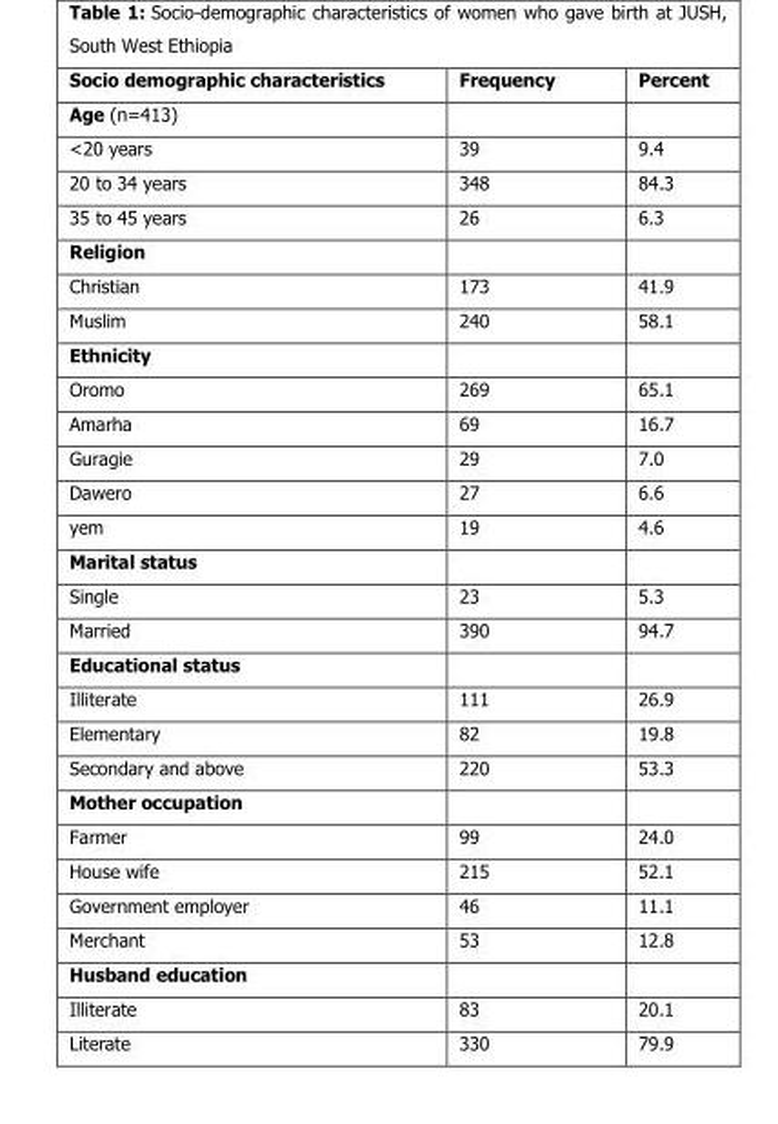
<table><thead><tr><td>Socio demographic characteristics</td><td>Frequency</td><td>Percent</td></tr></thead><tbody><tr><td colspan="3">Age (n=413)</td></tr><tr><td>&lt;20 years</td><td>39</td><td>9.4</td></tr><tr><td>20 to 34 years</td><td>348</td><td>84.3</td></tr><tr><td>35 to 45 years</td><td>26</td><td>6.3</td></tr><tr><td colspan="3">Religion</td></tr><tr><td>Christian</td><td>173</td><td>41.9</td></tr><tr><td>Muslim</td><td>240</td><td>58.1</td></tr><tr><td colspan="3">Ethnicity</td></tr><tr><td>Oromo</td><td>269</td><td>65.1</td></tr><tr><td>Amarha</td><td>69</td><td>16.7</td></tr><tr><td>Guragie</td><td>29</td><td>7.0</td></tr><tr><td>Dawero</td><td>27</td><td>6.6</td></tr><tr><td>yem</td><td>19</td><td>4.6</td></tr><tr><td colspan="3">Marital status</td></tr><tr><td>Single</td><td>23</td><td>5.3</td></tr><tr><td>Married</td><td>390</td><td>94.7</td></tr><tr><td colspan="3">Educational status</td></tr><tr><td>Illiterate</td><td>111</td><td>26.9</td></tr><tr><td>Elementary</td><td>82</td><td>19.8</td></tr><tr><td>Secondary and above</td><td>220</td><td>53.3</td></tr><tr><td colspan="3">Mother occupation</td></tr><tr><td>Farmer</td><td>99</td><td>24.0</td></tr><tr><td>House wife</td><td>215</td><td>52.1</td></tr><tr><td>Government employer</td><td>46</td><td>11.1</td></tr><tr><td>Merchant</td><td>53</td><td>12.8</td></tr><tr><td colspan="3">Husband education</td></tr><tr><td>Illiterate</td><td>83</td><td>20.1</td></tr><tr><td>Literate</td><td>330</td><td>79.9</td></tr></tbody></table>